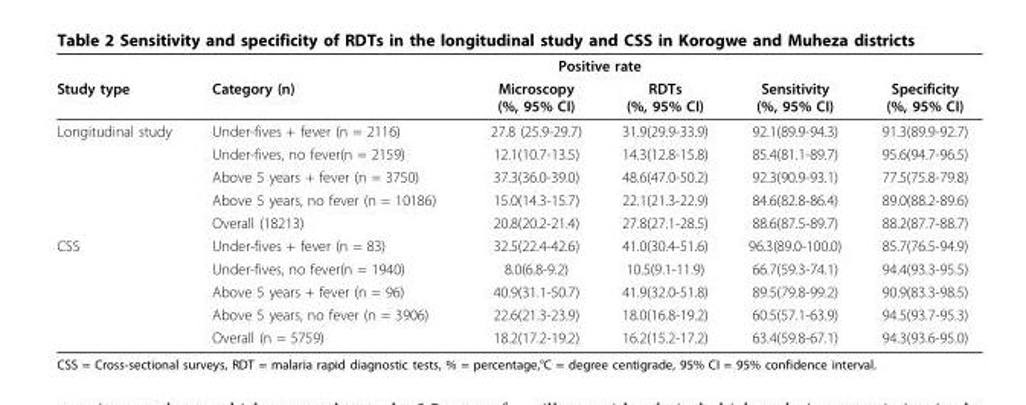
<table><thead><tr><td rowspan="2">Study type</td><td rowspan="2">Category (n)</td><td colspan="2">Positive rate</td><td rowspan="2">Sensitivity (%, 95% CI)</td><td rowspan="2">Specificity (%, 95% CI)</td></tr><tr><td>Microscopy (%, 95% CI)</td><td>RDTs (%, 95% CI)</td></tr></thead><tbody><tr><td rowspan="5">Longitudinal study</td><td>Under-fives + fever (n = 2116)</td><td>27.8 (25.9-29.7)</td><td>31.9(29.9-33.9)</td><td>92.1(89.9-94.3)</td><td>91.3(89.9-92.7)</td></tr><tr><td>Under-fives, no fever(n = 2159)</td><td>12.1(10.7-13.5)</td><td>14.3(12.8-15.8)</td><td>85.4(81.1-89.7)</td><td>95.6(94.7-96.5)</td></tr><tr><td>Above 5 years + fever (n = 3750)</td><td>37.3(36.0-39.0)</td><td>48.6(47.0-50.2)</td><td>92.3(90.9-93.1)</td><td>77.5(75.8-79.8)</td></tr><tr><td>Above 5 years, no fever (n = 10186)</td><td>15.0(14.3-15.7)</td><td>22.1(21.3-22.9)</td><td>84.6(82.8-86.4)</td><td>89.0(88.2-89.6)</td></tr><tr><td>Overall (18213)</td><td>20.8(20.2-21.4)</td><td>27.8(27.1-28.5)</td><td>88.6(87.5-89.7)</td><td>88.2(87.7-88.7)</td></tr><tr><td rowspan="5">CSS</td><td>Under-fives + fever (n = 83)</td><td>32.5(22.4-42.6)</td><td>41.0(30.4-51.6)</td><td>96.3(89.0-100.0)</td><td>85.7(76.5-94.9)</td></tr><tr><td>Under-fives, no fever(n = 1940)</td><td>8.0(6.8-9.2)</td><td>10.5(9.1-11.9)</td><td>66.7(59.3-74.1)</td><td>94.4(93.3-95.5)</td></tr><tr><td>Above 5 years + fever (n = 96)</td><td>40.9(31.1-50.7)</td><td>41.9(32.0-51.8)</td><td>89.5(79.8-99.2)</td><td>90.9(83.3-98.5)</td></tr><tr><td>Above 5 years, no fever (n = 3906)</td><td>22.6(21.3-23.9)</td><td>18.0(16.8-19.2)</td><td>60.5(57.1-63.9)</td><td>94.5(93.7-95.3)</td></tr><tr><td>Overall (n = 5759)</td><td>18.2(17.2-19.2)</td><td>16.2(15.2-17.2)</td><td>63.4(59.8-67.1)</td><td>94.3(93.6-95.0)</td></tr></tbody></table>